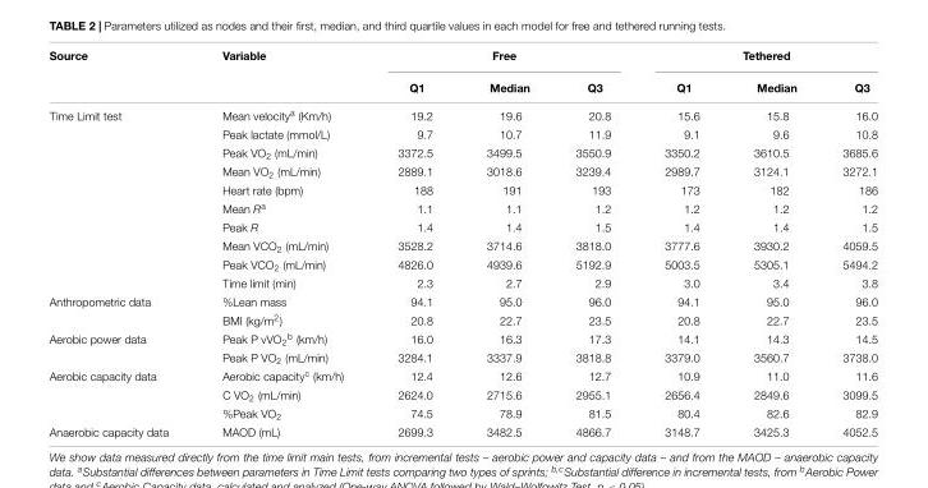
<table><thead><tr><td rowspan="2">Source</td><td rowspan="2">Variable</td><td colspan="3">Free</td><td colspan="3">Tethered</td></tr><tr><td>Q1</td><td>Median</td><td>Q3</td><td>Q1</td><td>Median</td><td>Q3</td></tr></thead><tbody><tr><td rowspan="10">Time Limit test</td><td>Mean velocity<sup>a</sup> (Km/h)</td><td>19.2</td><td>19.6</td><td>20.8</td><td>15.6</td><td>15.8</td><td>16.0</td></tr><tr><td>Peak lactate (mmol/L)</td><td>9.7</td><td>10.7</td><td>11.9</td><td>9.1</td><td>9.6</td><td>10.8</td></tr><tr><td>Peak VO<sub>2</sub> (mL/min)</td><td>3372.5</td><td>3499.5</td><td>3550.9</td><td>3350.2</td><td>3610.5</td><td>3685.6</td></tr><tr><td>Mean VO<sub>2</sub> (mL/min)</td><td>2889.1</td><td>3018.6</td><td>3239.4</td><td>2989.7</td><td>3124.1</td><td>3272.1</td></tr><tr><td>Heart rate (bpm)</td><td>188</td><td>191</td><td>193</td><td>173</td><td>182</td><td>186</td></tr><tr><td>Mean R<sup>a</sup></td><td>1.1</td><td>1.1</td><td>1.2</td><td>1.2</td><td>1.2</td><td>1.2</td></tr><tr><td>Peak R</td><td>1.4</td><td>1.4</td><td>1.5</td><td>1.4</td><td>1.4</td><td>1.5</td></tr><tr><td>Mean VCO<sub>2</sub> (mL/min)</td><td>3528.2</td><td>3714.6</td><td>3818.0</td><td>3777.6</td><td>3930.2</td><td>4059.5</td></tr><tr><td>Peak VCO<sub>2</sub> (mL/min)</td><td>4826.0</td><td>4939.6</td><td>5192.9</td><td>5003.5</td><td>5305.1</td><td>5494.2</td></tr><tr><td>Time limit (min)</td><td>2.3</td><td>2.7</td><td>2.9</td><td>3.0</td><td>3.4</td><td>3.8</td></tr><tr><td rowspan="2">Anthropometric data</td><td>%Lean mass</td><td>94.1</td><td>95.0</td><td>96.0</td><td>94.1</td><td>95.0</td><td>96.0</td></tr><tr><td>BMI (kg/m<sup>2</sup>)</td><td>20.8</td><td>22.7</td><td>23.5</td><td>20.8</td><td>22.7</td><td>23.5</td></tr><tr><td rowspan="2">Aerobic power data</td><td>Peak P vVO<sub>2</sub><sup>b</sup> (km/h)</td><td>16.0</td><td>16.3</td><td>17.3</td><td>14.1</td><td>14.3</td><td>14.5</td></tr><tr><td>Peak P VO<sub>2</sub> (mL/min)</td><td>3284.1</td><td>3337.9</td><td>3818.8</td><td>3379.0</td><td>3560.7</td><td>3738.0</td></tr><tr><td rowspan="3">Aerobic capacity data</td><td>Aerobic capacity<sup>c</sup> (km/h)</td><td>12.4</td><td>12.6</td><td>12.7</td><td>10.9</td><td>11.0</td><td>11.6</td></tr><tr><td>C VO<sub>2</sub> (mL/min)</td><td>2624.0</td><td>2715.6</td><td>2955.1</td><td>2656.4</td><td>2849.6</td><td>3099.5</td></tr><tr><td>%Peak VO<sub>2</sub></td><td>74.5</td><td>78.9</td><td>81.5</td><td>80.4</td><td>82.6</td><td>82.9</td></tr><tr><td>Anaerobic capacity data</td><td>MAOD (mL)</td><td>2699.3</td><td>3482.5</td><td>4866.7</td><td>3148.7</td><td>3425.3</td><td>4052.5</td></tr></tbody></table>